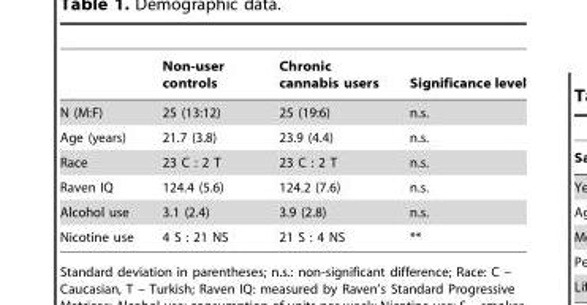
<table><thead><tr><td></td><td>Non-user controls</td><td>Chronic cannabis users</td><td>Significance level</td></tr></thead><tbody><tr><td>N (M:F)</td><td>25 (13:12)</td><td>25 (19:6)</td><td>n.s.</td></tr><tr><td>Age (years)</td><td>21.7 (3.8)</td><td>23.9 (4.4)</td><td>n.s.</td></tr><tr><td>Race</td><td>23 C : 2 T</td><td>23 C : 2 T</td><td>n.s.</td></tr><tr><td>Raven IQ</td><td>124.4 (5.6)</td><td>124.2 (7.6)</td><td>n.s.</td></tr><tr><td>Alcohol use</td><td>3.1 (2.4)</td><td>3.9 (2.8)</td><td>n.s.</td></tr><tr><td>Nicotine use</td><td>4 S : 21 NS</td><td>21 S : 4 NS</td><td>**</td></tr></tbody></table>